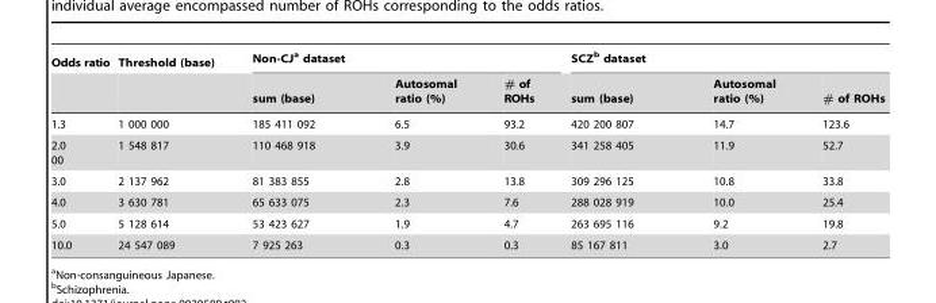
<table><thead><tr><td rowspan="2">Odds ratio</td><td rowspan="2">Threshold (base)</td><td colspan="3">Non-CJ<sup>a</sup> dataset</td><td colspan="3">SCZ<sup>b</sup> dataset</td></tr><tr><td>sum (base)</td><td>Autosomal ratio (%)</td><td># of ROHs</td><td>sum (base)</td><td>Autosomal ratio (%)</td><td># of ROHs</td></tr></thead><tbody><tr><td>1.3</td><td>1 000 000</td><td>185 411 092</td><td>6.5</td><td>93.2</td><td>420 200 807</td><td>14.7</td><td>123.6</td></tr><tr><td>2.0 00</td><td>1 548 817</td><td>110 468 918</td><td>3.9</td><td>30.6</td><td>341 258 405</td><td>11.9</td><td>52.7</td></tr><tr><td>3.0</td><td>2 137 962</td><td>81 383 855</td><td>2.8</td><td>13.8</td><td>309 296 125</td><td>10.8</td><td>33.8</td></tr><tr><td>4.0</td><td>3 630 781</td><td>65 633 075</td><td>2.3</td><td>7.6</td><td>288 028 919</td><td>10.0</td><td>25.4</td></tr><tr><td>5.0</td><td>5 128 614</td><td>53 423 627</td><td>1.9</td><td>4.7</td><td>263 695 116</td><td>9.2</td><td>19.8</td></tr><tr><td>10.0</td><td>24 547 089</td><td>7 925 263</td><td>0.3</td><td>0.3</td><td>85 167 811</td><td>3.0</td><td>2.7</td></tr></tbody></table>